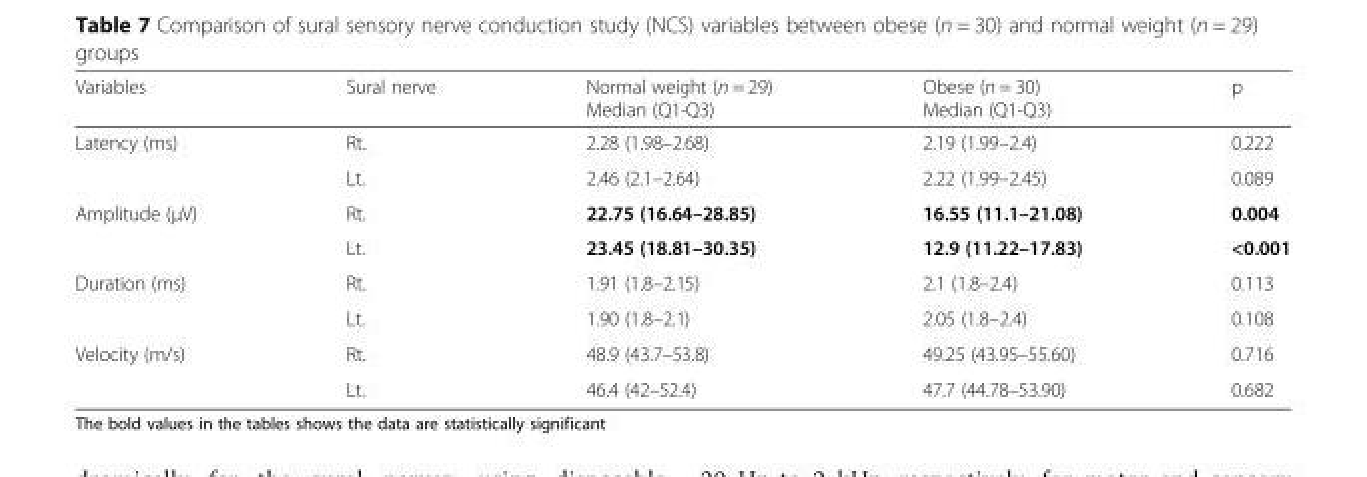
<table><thead><tr><td>Variables</td><td>Sural nerve</td><td>Normal weight (n = 29) Median (Q1-Q3)</td><td>Obese (n = 30) Median (Q1-Q3)</td><td>p</td></tr></thead><tbody><tr><td rowspan="2">Latency (ms)</td><td>Rt.</td><td>2.28 (1.98–2.68)</td><td>2.19 (1.99–2.4)</td><td>0.222</td></tr><tr><td>Lt.</td><td>2.46 (2.1–2.64)</td><td>2.22 (1.99–2.45)</td><td>0.089</td></tr><tr><td rowspan="2">Amplitude (μV)</td><td>Rt.</td><td>22.75 (16.64–28.85)</td><td>16.55 (11.1–21.08)</td><td>0.004</td></tr><tr><td>Lt.</td><td>23.45 (18.81–30.35)</td><td>12.9 (11.22–17.83)</td><td>&lt;0.001</td></tr><tr><td rowspan="2">Duration (ms)</td><td>Rt.</td><td>1.91 (1.8–2.15)</td><td>2.1 (1.8–2.4)</td><td>0.113</td></tr><tr><td>Lt.</td><td>1.90 (1.8–2.1)</td><td>2.05 (1.8–2.4)</td><td>0.108</td></tr><tr><td rowspan="2">Velocity (m/s)</td><td>Rt.</td><td>48.9 (43.7–53.8)</td><td>49.25 (43.95–55.60)</td><td>0.716</td></tr><tr><td>Lt.</td><td>46.4 (42–52.4)</td><td>47.7 (44.78–53.90)</td><td>0.682</td></tr></tbody></table>